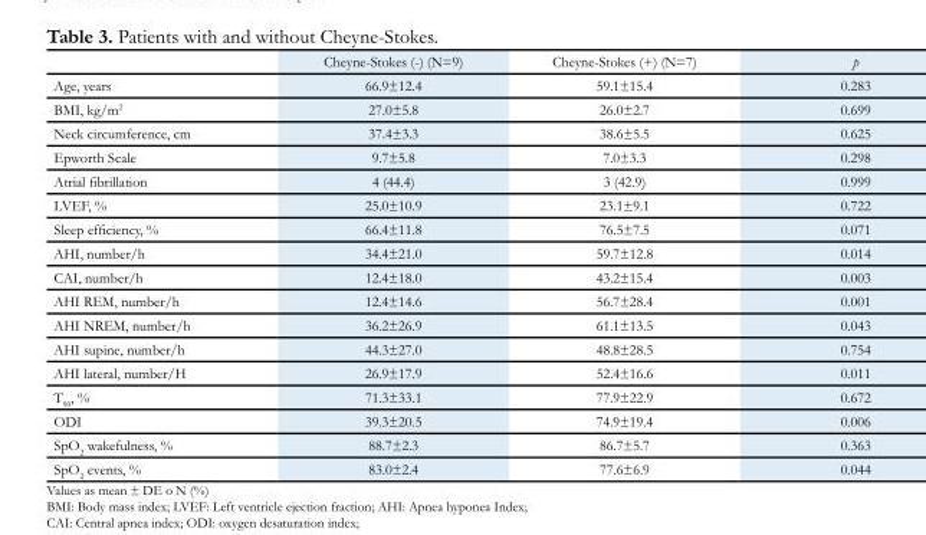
<table><thead><tr><td></td><td>Cheyne-Stokes (-) (N=9)</td><td>Cheyne-Stokes (+) (N=7)</td><td>p</td></tr></thead><tbody><tr><td>Age, years</td><td>66.9±12.4</td><td>59.1±15.4</td><td>0.283</td></tr><tr><td>BMI, kg/m2</td><td>27.0±5.8</td><td>26.0±2.7</td><td>0.699</td></tr><tr><td>Neck circumference, cm</td><td>37.4±3.3</td><td>38.6±5.5</td><td>0.625</td></tr><tr><td>Epworth Scale</td><td>9.7±5.8</td><td>7.0±3.3</td><td>0.298</td></tr><tr><td>Atrial fibrillation</td><td>4 (44.4)</td><td>3 (42.9)</td><td>0.999</td></tr><tr><td>LVEF, %</td><td>25.0±10.9</td><td>23.1±9.1</td><td>0.722</td></tr><tr><td>Sleep efficiency, %</td><td>66.4±11.8</td><td>76.5±7.5</td><td>0.071</td></tr><tr><td>AHI, number/h</td><td>34.4±21.0</td><td>59.7±12.8</td><td>0.014</td></tr><tr><td>CAI, number/h</td><td>12.4±18.0</td><td>43.2±15.4</td><td>0.003</td></tr><tr><td>AHI REM, number/h</td><td>12.4±14.6</td><td>56.7±28.4</td><td>0.001</td></tr><tr><td>AHI NREM, number/h</td><td>36.2±26.9</td><td>61.1±13.5</td><td>0.043</td></tr><tr><td>AHI supine, number/h</td><td>44.3±27.0</td><td>48.8±28.5</td><td>0.754</td></tr><tr><td>AHI lateral, number/H</td><td>26.9±17.9</td><td>52.4±16.6</td><td>0.011</td></tr><tr><td>T<sub>90</sub>, %</td><td>71.3±33.1</td><td>77.9±22.9</td><td>0.672</td></tr><tr><td>ODI</td><td>39.3±20.5</td><td>74.9±19.4</td><td>0.006</td></tr><tr><td>SpO<sub>2</sub> wakefulness, %</td><td>88.7±2.3</td><td>86.7±5.7</td><td>0.363</td></tr><tr><td>SpO<sub>2</sub> events, %</td><td>83.0±2.4</td><td>77.6±6.9</td><td>0.044</td></tr></tbody></table>